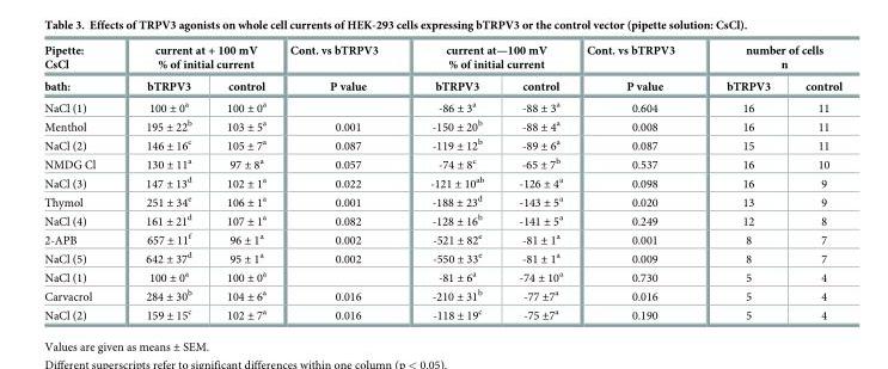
<table><thead><tr><td rowspan="2">Pipette: CsCl bath:</td><td colspan="2">current at + 100 mV % of initial current</td><td rowspan="2">Cont. vs bTRPV3 P value</td><td colspan="2">current at—100 mV % of initial current</td><td rowspan="2">Cont. vs bTRPV3 P value</td><td colspan="2">number of cells n</td></tr><tr><td>bTRPV3</td><td>control</td><td>bTRPV3</td><td>control</td><td>bTRPV3</td><td>control</td></tr></thead><tbody><tr><td>NaCl (1)</td><td>100 ± 0<sup>a</sup></td><td>100 ± 0<sup>a</sup></td><td></td><td>-86 ± 3<sup>a</sup></td><td>-88 ± 3<sup>a</sup></td><td>0.604</td><td>16</td><td>11</td></tr><tr><td>Menthol</td><td>195 ± 22<sup>b</sup></td><td>103 ± 5<sup>a</sup></td><td>0.001</td><td>-150 ± 20<sup>b</sup></td><td>-88 ± 4<sup>a</sup></td><td>0.008</td><td>16</td><td>11</td></tr><tr><td>NaCl (2)</td><td>146 ± 16<sup>c</sup></td><td>105 ± 7<sup>a</sup></td><td>0.087</td><td>-119 ± 12<sup>b</sup></td><td>-89 ± 6<sup>a</sup></td><td>0.087</td><td>15</td><td>11</td></tr><tr><td>NMDG Cl</td><td>130 ± 11<sup>a</sup></td><td>97 ± 8<sup>a</sup></td><td>0.057</td><td>-74 ± 8<sup>c</sup></td><td>-65 ± 7<sup>b</sup></td><td>0.537</td><td>16</td><td>10</td></tr><tr><td>NaCl (3)</td><td>147 ± 13<sup>d</sup></td><td>102 ± 1<sup>a</sup></td><td>0.022</td><td>-121 ± 10<sup>ab</sup></td><td>-126 ± 4<sup>a</sup></td><td>0.098</td><td>16</td><td>9</td></tr><tr><td>Thymol</td><td>251 ± 34<sup>e</sup></td><td>106 ± 1<sup>a</sup></td><td>0.001</td><td>-188 ± 23<sup>d</sup></td><td>-143 ± 5<sup>a</sup></td><td>0.020</td><td>13</td><td>9</td></tr><tr><td>NaCl (4)</td><td>161 ± 21<sup>d</sup></td><td>107 ± 1<sup>a</sup></td><td>0.082</td><td>-128 ± 16<sup>b</sup></td><td>-141 ± 5<sup>a</sup></td><td>0.249</td><td>12</td><td>8</td></tr><tr><td>2-APB</td><td>657 ± 11<sup>f</sup></td><td>96 ± 1<sup>a</sup></td><td>0.002</td><td>-521 ± 82<sup>e</sup></td><td>-81 ± 1<sup>a</sup></td><td>0.001</td><td>8</td><td>7</td></tr><tr><td>NaCl (5)</td><td>642 ± 37<sup>d</sup></td><td>95 ± 1<sup>a</sup></td><td>0.002</td><td>-550 ± 33<sup>e</sup></td><td>-81 ± 1<sup>a</sup></td><td>0.009</td><td>8</td><td>7</td></tr><tr><td>NaCl (1)</td><td>100 ± 0<sup>a</sup></td><td>100 ± 0<sup>a</sup></td><td></td><td>-81 ± 6<sup>a</sup></td><td>-74 ± 10<sup>a</sup></td><td>0.730</td><td>5</td><td>4</td></tr><tr><td>Carvacrol</td><td>284 ± 30<sup>b</sup></td><td>104 ± 6<sup>a</sup></td><td>0.016</td><td>-210 ± 31<sup>b</sup></td><td>-77 ±7<sup>a</sup></td><td>0.016</td><td>5</td><td>4</td></tr><tr><td>NaCl (2)</td><td>159 ± 15<sup>c</sup></td><td>102 ± 7<sup>a</sup></td><td>0.016</td><td>-118 ± 19<sup>c</sup></td><td>-75 ±7<sup>a</sup></td><td>0.190</td><td>5</td><td>4</td></tr></tbody></table>